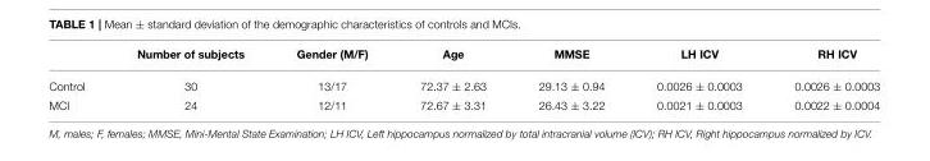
<table><thead><tr><td></td><td>Number of subjects</td><td>Gender (M/F)</td><td>Age</td><td>MMSE</td><td>LH ICV</td><td>RH ICV</td></tr></thead><tbody><tr><td>Control</td><td>30</td><td>13/17</td><td>72.37 ± 2.63</td><td>29.13 ± 0.94</td><td>0.0026 ± 0.0003</td><td>0.0026 ± 0.0003</td></tr><tr><td>MCI</td><td>24</td><td>12/11</td><td>72.67 ± 3.31</td><td>26.43 ± 3.22</td><td>0.0021 ± 0.0003</td><td>0.0022 ± 0.0004</td></tr></tbody></table>